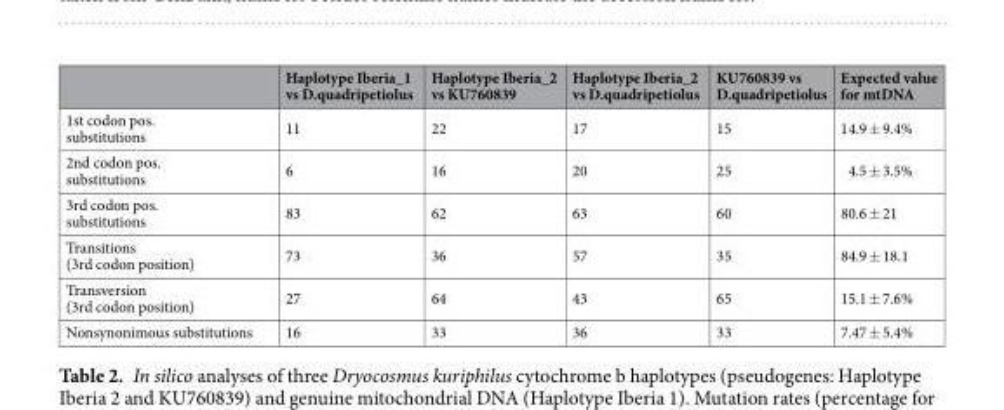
<table><thead><tr><td></td><td>Haplotype Iberia_1 vs D.quadripetiolus</td><td>Haplotype Iberia_2 vs KU760839</td><td>Haplotype Iberia_2 vs D.quadripetiolus</td><td>KU760839 vs D.quadripetiolus</td><td>Expected value for mtDNA</td></tr></thead><tbody><tr><td>1st codon pos. substitutions</td><td>11</td><td>22</td><td>17</td><td>15</td><td>14.9 ± 9.4%</td></tr><tr><td>2nd codon pos. substitutions</td><td>6</td><td>16</td><td>20</td><td>25</td><td>4.5 ± 3.5%</td></tr><tr><td>3rd codon pos. substitutions</td><td>83</td><td>62</td><td>63</td><td>60</td><td>80.6 ± 21</td></tr><tr><td>Transitions (3rd codon position)</td><td>73</td><td>36</td><td>57</td><td>35</td><td>84.9 ± 18.1</td></tr><tr><td>Transversion (3rd codon position)</td><td>27</td><td>64</td><td>43</td><td>65</td><td>15.1 ± 7.6%</td></tr><tr><td>Nonsynonimous substitutions</td><td>16</td><td>33</td><td>36</td><td>33</td><td>7.47 ± 5.4%</td></tr></tbody></table>